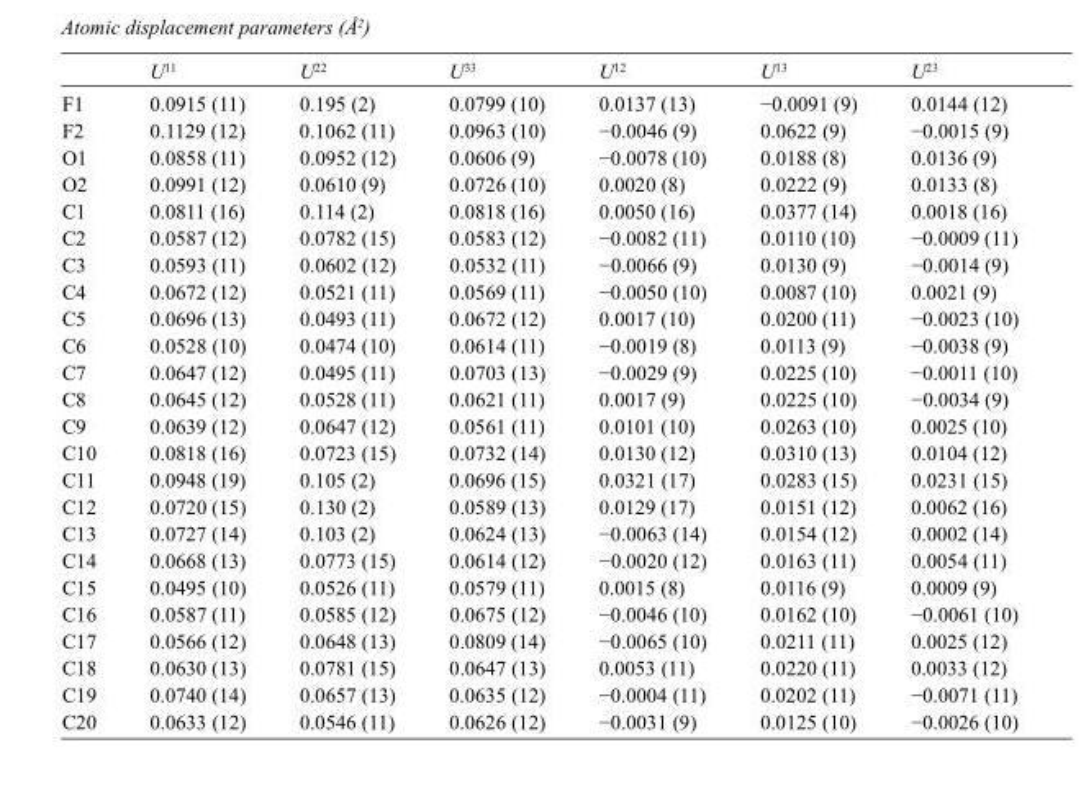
<table><thead><tr><td></td><td>U<sup>11</sup></td><td>U<sup>22</sup></td><td>U<sup>33</sup></td><td>U<sup>12</sup></td><td>U<sup>13</sup></td><td>U<sup>23</sup></td></tr></thead><tbody><tr><td>F1</td><td>0.0915 (11)</td><td>0.195 (2)</td><td>0.0799 (10)</td><td>0.0137 (13)</td><td>−0.0091 (9)</td><td>0.0144 (12)</td></tr><tr><td>F2</td><td>0.1129 (12)</td><td>0.1062 (11)</td><td>0.0963 (10)</td><td>−0.0046 (9)</td><td>0.0622 (9)</td><td>−0.0015 (9)</td></tr><tr><td>O1</td><td>0.0858 (11)</td><td>0.0952 (12)</td><td>0.0606 (9)</td><td>−0.0078 (10)</td><td>0.0188 (8)</td><td>0.0136 (9)</td></tr><tr><td>O2</td><td>0.0991 (12)</td><td>0.0610 (9)</td><td>0.0726 (10)</td><td>0.0020 (8)</td><td>0.0222 (9)</td><td>0.0133 (8)</td></tr><tr><td>C1</td><td>0.0811 (16)</td><td>0.114 (2)</td><td>0.0818 (16)</td><td>0.0050 (16)</td><td>0.0377 (14)</td><td>0.0018 (16)</td></tr><tr><td>C2</td><td>0.0587 (12)</td><td>0.0782 (15)</td><td>0.0583 (12)</td><td>−0.0082 (11)</td><td>0.0110 (10)</td><td>−0.0009 (11)</td></tr><tr><td>C3</td><td>0.0593 (11)</td><td>0.0602 (12)</td><td>0.0532 (11)</td><td>−0.0066 (9)</td><td>0.0130 (9)</td><td>−0.0014 (9)</td></tr><tr><td>C4</td><td>0.0672 (12)</td><td>0.0521 (11)</td><td>0.0569 (11)</td><td>−0.0050 (10)</td><td>0.0087 (10)</td><td>0.0021 (9)</td></tr><tr><td>C5</td><td>0.0696 (13)</td><td>0.0493 (11)</td><td>0.0672 (12)</td><td>0.0017 (10)</td><td>0.0200 (11)</td><td>−0.0023 (10)</td></tr><tr><td>C6</td><td>0.0528 (10)</td><td>0.0474 (10)</td><td>0.0614 (11)</td><td>−0.0019 (8)</td><td>0.0113 (9)</td><td>−0.0038 (9)</td></tr><tr><td>C7</td><td>0.0647 (12)</td><td>0.0495 (11)</td><td>0.0703 (13)</td><td>−0.0029 (9)</td><td>0.0225 (10)</td><td>−0.0011 (10)</td></tr><tr><td>C8</td><td>0.0645 (12)</td><td>0.0528 (11)</td><td>0.0621 (11)</td><td>0.0017 (9)</td><td>0.0225 (10)</td><td>−0.0034 (9)</td></tr><tr><td>C9</td><td>0.0639 (12)</td><td>0.0647 (12)</td><td>0.0561 (11)</td><td>0.0101 (10)</td><td>0.0263 (10)</td><td>0.0025 (10)</td></tr><tr><td>C10</td><td>0.0818 (16)</td><td>0.0723 (15)</td><td>0.0732 (14)</td><td>0.0130 (12)</td><td>0.0310 (13)</td><td>0.0104 (12)</td></tr><tr><td>C11</td><td>0.0948 (19)</td><td>0.105 (2)</td><td>0.0696 (15)</td><td>0.0321 (17)</td><td>0.0283 (15)</td><td>0.0231 (15)</td></tr><tr><td>C12</td><td>0.0720 (15)</td><td>0.130 (2)</td><td>0.0589 (13)</td><td>0.0129 (17)</td><td>0.0151 (12)</td><td>0.0062 (16)</td></tr><tr><td>C13</td><td>0.0727 (14)</td><td>0.103 (2)</td><td>0.0624 (13)</td><td>−0.0063 (14)</td><td>0.0154 (12)</td><td>0.0002 (14)</td></tr><tr><td>C14</td><td>0.0668 (13)</td><td>0.0773 (15)</td><td>0.0614 (12)</td><td>−0.0020 (12)</td><td>0.0163 (11)</td><td>0.0054 (11)</td></tr><tr><td>C15</td><td>0.0495 (10)</td><td>0.0526 (11)</td><td>0.0579 (11)</td><td>0.0015 (8)</td><td>0.0116 (9)</td><td>0.0009 (9)</td></tr><tr><td>C16</td><td>0.0587 (11)</td><td>0.0585 (12)</td><td>0.0675 (12)</td><td>−0.0046 (10)</td><td>0.0162 (10)</td><td>−0.0061 (10)</td></tr><tr><td>C17</td><td>0.0566 (12)</td><td>0.0648 (13)</td><td>0.0809 (14)</td><td>−0.0065 (10)</td><td>0.0211 (11)</td><td>0.0025 (12)</td></tr><tr><td>C18</td><td>0.0630 (13)</td><td>0.0781 (15)</td><td>0.0647 (13)</td><td>0.0053 (11)</td><td>0.0220 (11)</td><td>0.0033 (12)</td></tr><tr><td>C19</td><td>0.0740 (14)</td><td>0.0657 (13)</td><td>0.0635 (12)</td><td>−0.0004 (11)</td><td>0.0202 (11)</td><td>−0.0071 (11)</td></tr><tr><td>C20</td><td>0.0633 (12)</td><td>0.0546 (11)</td><td>0.0626 (12)</td><td>−0.0031 (9)</td><td>0.0125 (10)</td><td>−0.0026 (10)</td></tr></tbody></table>